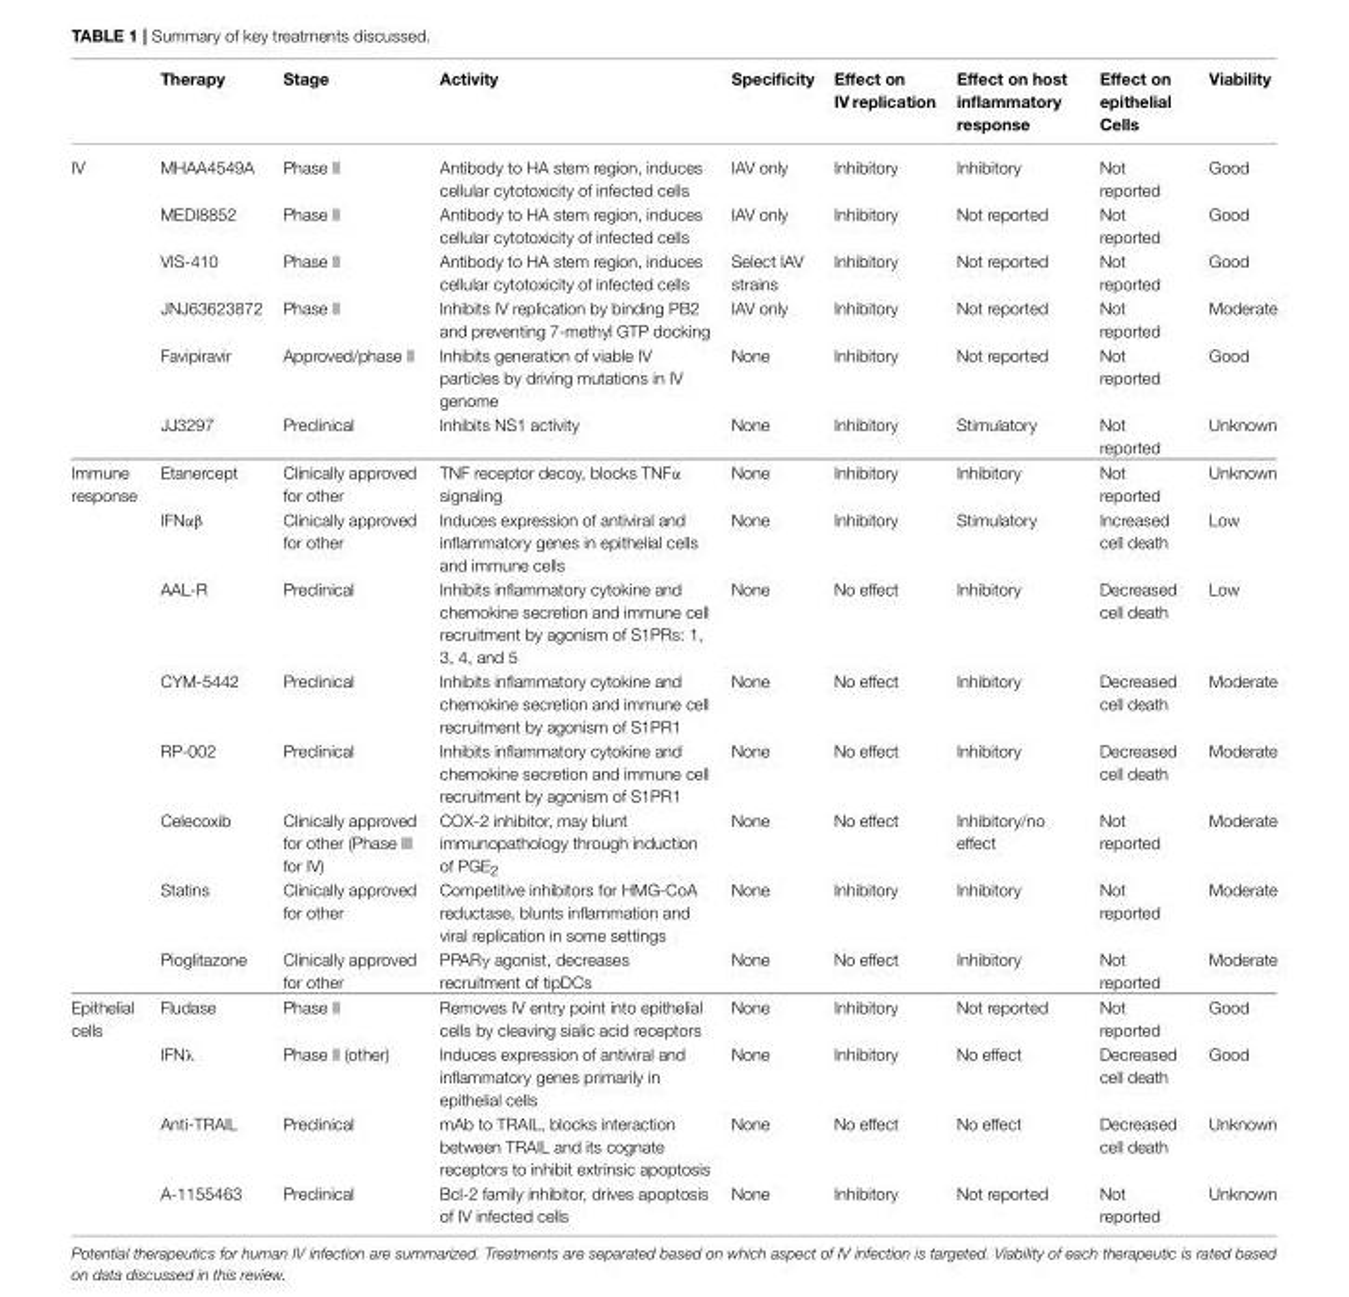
<table><thead><tr><td></td><td>Therapy</td><td>Stage</td><td>Activity</td><td>Specificity</td><td>Effect on IV replication</td><td>Effect on host inflammatory response</td><td>Effect on epithelial Cells</td><td>Viability</td></tr></thead><tbody><tr><td rowspan="6">IV</td><td>MHAA4549A</td><td>Phase II</td><td>Antibody to HA stem region, induces cellular cytotoxicity of infected cells</td><td>IAV only</td><td>Inhibitory</td><td>Inhibitory</td><td>Not reported</td><td>Good</td></tr><tr><td>MEDI8852</td><td>Phase II</td><td>Antibody to HA stem region, induces cellular cytotoxicity of infected cells</td><td>IAV only</td><td>Inhibitory</td><td>Not reported</td><td>Not reported</td><td>Good</td></tr><tr><td>VIS-410</td><td>Phase II</td><td>Antibody to HA stem region, induces cellular cytotoxicity of infected cells</td><td>Select IAV strains</td><td>Inhibitory</td><td>Not reported</td><td>Not reported</td><td>Good</td></tr><tr><td>JNJ63623872</td><td>Phase II</td><td>Inhibits IV replication by binding PB2 and preventing 7-methyl GTP docking</td><td>IAV only</td><td>Inhibitory</td><td>Not reported</td><td>Not reported</td><td>Moderate</td></tr><tr><td>Favipiravir</td><td>Approved/phase II</td><td>Inhibits generation of viable IV particles by driving mutations in IV genome</td><td>None</td><td>Inhibitory</td><td>Not reported</td><td>Not reported</td><td>Good</td></tr><tr><td>JJ3297</td><td>Preclinical</td><td>Inhibits NS1 activity</td><td>None</td><td>Inhibitory</td><td>Stimulatory</td><td>Not reported</td><td>Unknown</td></tr><tr><td rowspan="8">Immune response</td><td>Etanercept</td><td>Clinically approved for other</td><td>TNF receptor decoy, blocks TNFα signaling</td><td>None</td><td>Inhibitory</td><td>Inhibitory</td><td>Not reported</td><td>Unknown</td></tr><tr><td>IFNαβ</td><td>Clinically approved for other</td><td>Induces expression of antiviral and inflammatory genes in epithelial cells and immune cells</td><td>None</td><td>Inhibitory</td><td>Stimulatory</td><td>Increased cell death</td><td>Low</td></tr><tr><td>AAL-R</td><td>Preclinical</td><td>Inhibits inflammatory cytokine and chemokine secretion and immune cell recruitment by agonism of S1PRs: 1, 3, 4, and 5</td><td>None</td><td>No effect</td><td>Inhibitory</td><td>Decreased cell death</td><td>Low</td></tr><tr><td>CYM-5442</td><td>Preclinical</td><td>Inhibits inflammatory cytokine and chemokine secretion and immune cell recruitment by agonism of S1PR1</td><td>None</td><td>No effect</td><td>Inhibitory</td><td>Decreased cell death</td><td>Moderate</td></tr><tr><td>RP-002</td><td>Preclinical</td><td>Inhibits inflammatory cytokine and chemokine secretion and immune cell recruitment by agonism of S1PR1</td><td>None</td><td>No effect</td><td>Inhibitory</td><td>Decreased cell death</td><td>Moderate</td></tr><tr><td>Celecoxib</td><td>Clinically approved for other (Phase III for IV)</td><td>COX-2 inhibitor, may blunt immunopathology through induction of PGE<sub>2</sub></td><td>None</td><td>No effect</td><td>Inhibitory/no effect</td><td>Not reported</td><td>Moderate</td></tr><tr><td>Statins</td><td>Clinically approved for other</td><td>Competitive inhibitors for HMG-CoA reductase, blunts inflammation and viral replication in some settings</td><td>None</td><td>Inhibitory</td><td>Inhibitory</td><td>Not reported</td><td>Moderate</td></tr><tr><td>Pioglitazone</td><td>Clinically approved for other</td><td>PPARγ agonist, decreases recruitment of tipDCs</td><td>None</td><td>No effect</td><td>Inhibitory</td><td>Not reported</td><td>Moderate</td></tr><tr><td rowspan="4">Epithelial cells</td><td>Fludase</td><td>Phase II</td><td>Removes IV entry point into epithelial cells by cleaving sialic acid receptors</td><td>None</td><td>Inhibitory</td><td>Not reported</td><td>Not reported</td><td>Good</td></tr><tr><td>IFNλ</td><td>Phase II (other)</td><td>Induces expression of antiviral and inflammatory genes primarily in epithelial cells</td><td>None</td><td>Inhibitory</td><td>No effect</td><td>Decreased cell death</td><td>Good</td></tr><tr><td>Anti-TRAIL</td><td>Preclinical</td><td>mAb to TRAIL, blocks interaction between TRAIL and its cognate receptors to inhibit extrinsic apoptosis</td><td>None</td><td>No effect</td><td>No effect</td><td>Decreased cell death</td><td>Unknown</td></tr><tr><td>A-1155463</td><td>Preclinical</td><td>Bcl-2 family inhibitor, drives apoptosis of IV infected cells</td><td>None</td><td>Inhibitory</td><td>Not reported</td><td>Not reported</td><td>Unknown</td></tr></tbody></table>